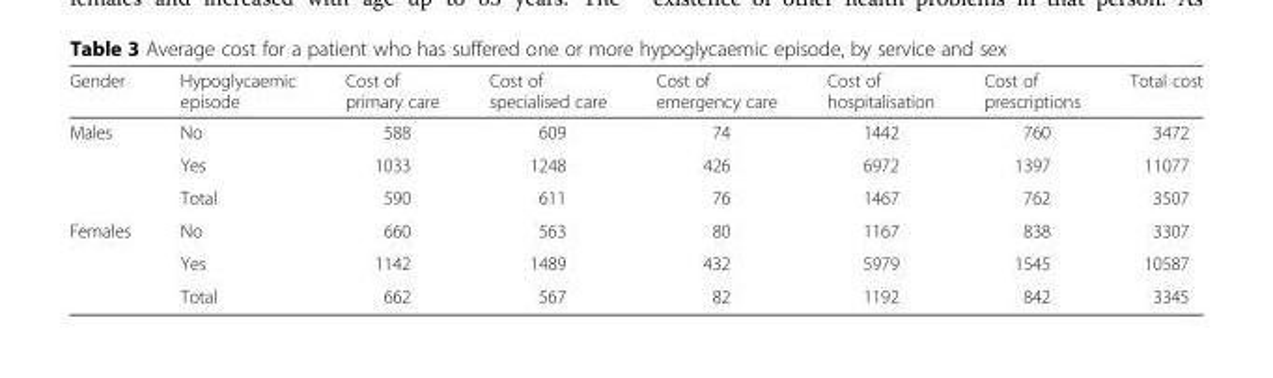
<table><thead><tr><td>Gender</td><td>Hypoglycaemic episode</td><td>Cost of primary care</td><td>Cost of specialised care</td><td>Cost of emergency care</td><td>Cost of hospitalisation</td><td>Cost of prescriptions</td><td>Total cost</td></tr></thead><tbody><tr><td rowspan="3">Males</td><td>No</td><td>588</td><td>609</td><td>74</td><td>1442</td><td>760</td><td>3472</td></tr><tr><td>Yes</td><td>1033</td><td>1248</td><td>426</td><td>6972</td><td>1397</td><td>11077</td></tr><tr><td>Total</td><td>590</td><td>611</td><td>76</td><td>1467</td><td>762</td><td>3507</td></tr><tr><td rowspan="3">Females</td><td>No</td><td>660</td><td>563</td><td>80</td><td>1167</td><td>838</td><td>3307</td></tr><tr><td>Yes</td><td>1142</td><td>1489</td><td>432</td><td>5979</td><td>1545</td><td>10587</td></tr><tr><td>Total</td><td>662</td><td>567</td><td>82</td><td>1192</td><td>842</td><td>3345</td></tr></tbody></table>